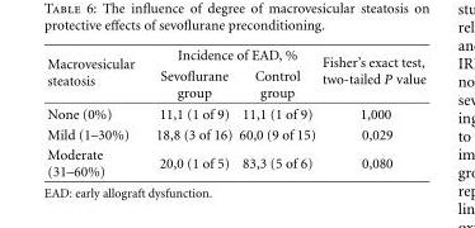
<table><thead><tr><td rowspan="2">Macrovesicular steatosis</td><td colspan="2">Incidence of EAD, %</td><td rowspan="2">Fisher’s exact test, two-tailed P value</td></tr><tr><td>Sevoflurane group</td><td>Control group</td></tr></thead><tbody><tr><td>None (0%)</td><td>11,1 (1 of 9)</td><td>11,1 (1 of 9)</td><td>1,000</td></tr><tr><td>Mild (1–30%)</td><td>18,8 (3 of 16)</td><td>60,0 (9 of 15)</td><td>0,029</td></tr><tr><td>Moderate (31–60%)</td><td>20,0 (1 of 5)</td><td>83,3 (5 of 6)</td><td>0,080</td></tr></tbody></table>